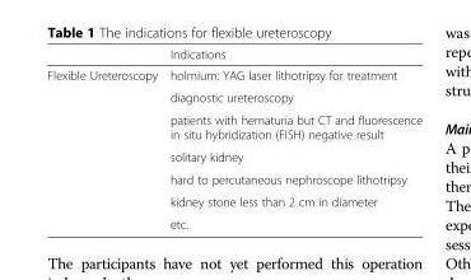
<table><thead><tr><td></td><td>Indications</td></tr></thead><tbody><tr><td rowspan="7">Flexible Ureteroscopy</td><td>holmium: YAG laser lithotripsy for treatment</td></tr><tr><td>diagnostic ureteroscopy</td></tr><tr><td>patients with hematuria but CT and fluorescence in situ hybridization (FISH) negative result</td></tr><tr><td>solitary kidney</td></tr><tr><td>hard to percutaneous nephroscope lithotripsy</td></tr><tr><td>kidney stone less than 2 cm in diameter</td></tr><tr><td>etc.</td></tr></tbody></table>